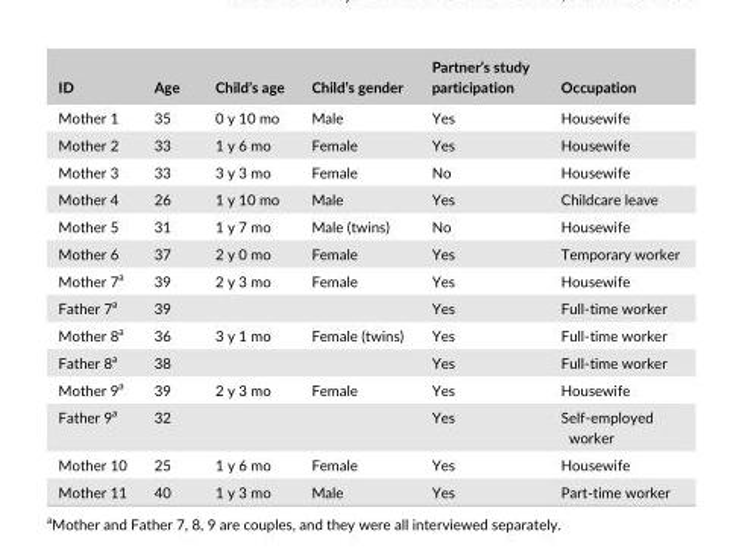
<table><thead><tr><td>ID</td><td>Age</td><td>Child’s age</td><td>Child’s gender</td><td>Partner’s study participation</td><td>Occupation</td></tr></thead><tbody><tr><td>Mother 1</td><td>35</td><td>0 y 10 mo</td><td>Male</td><td>Yes</td><td>Housewife</td></tr><tr><td>Mother 2</td><td>33</td><td>1 y 6 mo</td><td>Female</td><td>Yes</td><td>Housewife</td></tr><tr><td>Mother 3</td><td>33</td><td>3 y 3 mo</td><td>Female</td><td>No</td><td>Housewife</td></tr><tr><td>Mother 4</td><td>26</td><td>1 y 10 mo</td><td>Male</td><td>Yes</td><td>Childcare leave</td></tr><tr><td>Mother 5</td><td>31</td><td>1 y 7 mo</td><td>Male (twins)</td><td>No</td><td>Housewife</td></tr><tr><td>Mother 6</td><td>37</td><td>2 y 0 mo</td><td>Female</td><td>Yes</td><td>Temporary worker</td></tr><tr><td>Mother 7<sup>a</sup></td><td>39</td><td>2 y 3 mo</td><td>Female</td><td>Yes</td><td>Housewife</td></tr><tr><td>Father 7<sup>a</sup></td><td>39</td><td></td><td></td><td>Yes</td><td>Full- time worker</td></tr><tr><td>Mother 8<sup>a</sup></td><td>36</td><td>3 y 1 mo</td><td>Female (twins)</td><td>Yes</td><td>Full- time worker</td></tr><tr><td>Father 8<sup>a</sup></td><td>38</td><td></td><td></td><td>Yes</td><td>Full- time worker</td></tr><tr><td>Mother 9<sup>a</sup></td><td>39</td><td>2 y 3 mo</td><td>Female</td><td>Yes</td><td>Housewife</td></tr><tr><td>Father 9<sup>a</sup></td><td>32</td><td></td><td></td><td>Yes</td><td>Self- employed worker</td></tr><tr><td>Mother 10</td><td>25</td><td>1 y 6 mo</td><td>Female</td><td>Yes</td><td>Housewife</td></tr><tr><td>Mother 11</td><td>40</td><td>1 y 3 mo</td><td>Male</td><td>Yes</td><td>Part- time worker</td></tr></tbody></table>